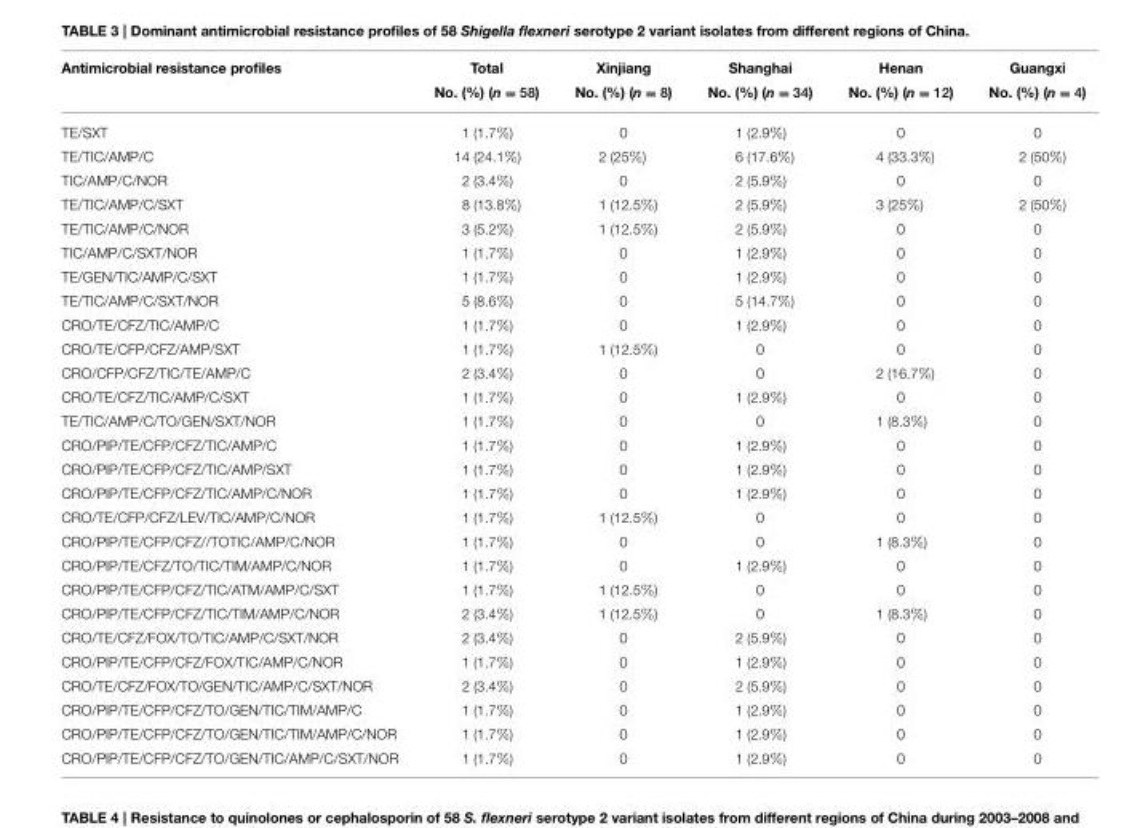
<table><thead><tr><td>Antimicrobial resistance profiles</td><td>Total No. (%) (n = 58)</td><td>Xinjiang No. (%) (n = 8)</td><td>Shanghai No. (%) (n = 34)</td><td>Henan No. (%) (n = 12)</td><td>Guangxi No. (%) (n = 4)</td></tr></thead><tbody><tr><td>TE/SXT</td><td>1 (1.7%)</td><td>0</td><td>1 (2.9%)</td><td>0</td><td>0</td></tr><tr><td>TE/TIC/AMP/C</td><td>14 (24.1%)</td><td>2 (25%)</td><td>6 (17.6%)</td><td>4 (33.3%)</td><td>2 (50%)</td></tr><tr><td>TIC/AMP/C/NOR</td><td>2 (3.4%)</td><td>0</td><td>2 (5.9%)</td><td>0</td><td>0</td></tr><tr><td>TE/TIC/AMP/C/SXT</td><td>8 (13.8%)</td><td>1 (12.5%)</td><td>2 (5.9%)</td><td>3 (25%)</td><td>2 (50%)</td></tr><tr><td>TE/TIC/AMP/C/NOR</td><td>3 (5.2%)</td><td>1 (12.5%)</td><td>2 (5.9%)</td><td>0</td><td>0</td></tr><tr><td>TIC/AMP/C/SXT/NOR</td><td>1 (1.7%)</td><td>0</td><td>1 (2.9%)</td><td>0</td><td>0</td></tr><tr><td>TE/GEN/TIC/AMP/C/SXT</td><td>1 (1.7%)</td><td>0</td><td>1 (2.9%)</td><td>0</td><td>0</td></tr><tr><td>TE/TIC/AMP/C/SXT/NOR</td><td>5 (8.6%)</td><td>0</td><td>5 (14.7%)</td><td>0</td><td>0</td></tr><tr><td>CRO/TE/CFZ/TIC/AMP/C</td><td>1 (1.7%)</td><td>0</td><td>1 (2.9%)</td><td>0</td><td>0</td></tr><tr><td>CRO/TE/CFP/CFZ/AMP/SXT</td><td>1 (1.7%)</td><td>1 (12.5%)</td><td>0</td><td>0</td><td>0</td></tr><tr><td>CRO/CFP/CFZ/TIC/TE/AMP/C</td><td>2 (3.4%)</td><td>0</td><td>0</td><td>2 (16.7%)</td><td>0</td></tr><tr><td>CRO/TE/CFZ/TIC/AMP/C/SXT</td><td>1 (1.7%)</td><td>0</td><td>1 (2.9%)</td><td>0</td><td>0</td></tr><tr><td>TE/TIC/AMP/C/TO/GEN/SXT/NOR</td><td>1 (1.7%)</td><td>0</td><td>0</td><td>1 (8.3%)</td><td>0</td></tr><tr><td>CRO/PIP/TE/CFP/CFZ/TIC/AMP/C</td><td>1 (1.7%)</td><td>0</td><td>1 (2.9%)</td><td>0</td><td>0</td></tr><tr><td>CRO/PIP/TE/CFP/CFZ/TIC/AMP/SXT</td><td>1 (1.7%)</td><td>0</td><td>1 (2.9%)</td><td>0</td><td>0</td></tr><tr><td>CRO/PIP/TE/CFP/CFZ/TIC/AMP/C/NOR</td><td>1 (1.7%)</td><td>0</td><td>1 (2.9%)</td><td>0</td><td>0</td></tr><tr><td>CRO/TE/CFP/CFZ/LEV/TIC/AMP/C/NOR</td><td>1 (1.7%)</td><td>1 (12.5%)</td><td>0</td><td>0</td><td>0</td></tr><tr><td>CRO/PIP/TE/CFP/CFZ//TOTIC/AMP/C/NOR</td><td>1 (1.7%)</td><td>0</td><td>0</td><td>1 (8.3%)</td><td>0</td></tr><tr><td>CRO/PIP/TE/CFZ/TO/TIC/TIM/AMP/C/NOR</td><td>1 (1.7%)</td><td>0</td><td>1 (2.9%)</td><td>0</td><td>0</td></tr><tr><td>CRO/PIP/TE/CFP/CFZ/TIC/ATM/AMP/C/SXT</td><td>1 (1.7%)</td><td>1 (12.5%)</td><td>0</td><td>0</td><td>0</td></tr><tr><td>CRO/PIP/TE/CFP/CFZ/TIC/TIM/AMP/C/NOR</td><td>2 (3.4%)</td><td>1 (12.5%)</td><td>0</td><td>1 (8.3%)</td><td>0</td></tr><tr><td>CRO/TE/CFZ/FOX/TO/TIC/AMP/C/SXT/NOR</td><td>2 (3.4%)</td><td>0</td><td>2 (5.9%)</td><td>0</td><td>0</td></tr><tr><td>CRO/PIP/TE/CFP/CFZ/FOX/TIC/AMP/C/NOR</td><td>1 (1.7%)</td><td>0</td><td>1 (2.9%)</td><td>0</td><td>0</td></tr><tr><td>CRO/TE/CFZ/FOX/TO/GEN/TIC/AMP/C/SXT/NOR</td><td>2 (3.4%)</td><td>0</td><td>2 (5.9%)</td><td>0</td><td>0</td></tr><tr><td>CRO/PIP/TE/CFP/CFZ/TO/GEN/TIC/TIM/AMP/C</td><td>1 (1.7%)</td><td>0</td><td>1 (2.9%)</td><td>0</td><td>0</td></tr><tr><td>CRO/PIP/TE/CFP/CFZ/TO/GEN/TIC/TIM/AMP/C/NOR</td><td>1 (1.7%)</td><td>0</td><td>1 (2.9%)</td><td>0</td><td>0</td></tr><tr><td>CRO/PIP/TE/CFP/CFZ/TO/GEN/TIC/AMP/C/SXT/NOR</td><td>1 (1.7%)</td><td>0</td><td>1 (2.9%)</td><td>0</td><td>0</td></tr></tbody></table>